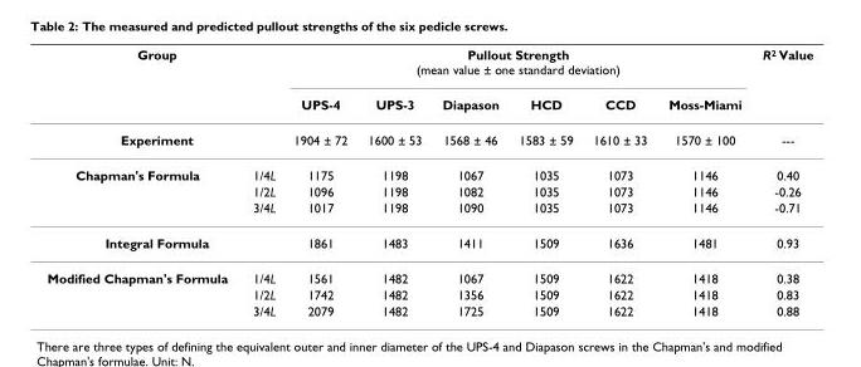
<table><thead><tr><td colspan="2">Group</td><td colspan="6">Pullout Strength (mean value ± one standard deviation)</td><td rowspan="2">R<sup>2</sup> Value</td></tr><tr><td></td><td></td><td>UPS-4</td><td>UPS-3</td><td>Diapason</td><td>HCD</td><td>CCD</td><td>Moss-Miami</td></tr></thead><tbody><tr><td colspan="2">Experiment</td><td>1904 ± 72</td><td>1600 ± 53</td><td>1568 ± 46</td><td>1583 ± 59</td><td>1610 ± 33</td><td>1570 ± 100</td><td>---</td></tr><tr><td rowspan="3">Chapman&#x27;s Formula</td><td>1/4L</td><td>1175</td><td>1198</td><td>1067</td><td>1035</td><td>1073</td><td>1146</td><td>0.40</td></tr><tr><td>1/2L</td><td>1096</td><td>1198</td><td>1082</td><td>1035</td><td>1073</td><td>1146</td><td>-0.26</td></tr><tr><td>3/4L</td><td>1017</td><td>1198</td><td>1090</td><td>1035</td><td>1073</td><td>1146</td><td>-0.71</td></tr><tr><td colspan="2">Integral Formula</td><td>1861</td><td>1483</td><td>1411</td><td>1509</td><td>1636</td><td>1481</td><td>0.93</td></tr><tr><td rowspan="3">Modified Chapman&#x27;s Formula</td><td>1/4L</td><td>1561</td><td>1482</td><td>1067</td><td>1509</td><td>1622</td><td>1418</td><td>0.38</td></tr><tr><td>1/2L</td><td>1742</td><td>1482</td><td>1356</td><td>1509</td><td>1622</td><td>1418</td><td>0.83</td></tr><tr><td>3/4L</td><td>2079</td><td>1482</td><td>1725</td><td>1509</td><td>1622</td><td>1418</td><td>0.88</td></tr></tbody></table>